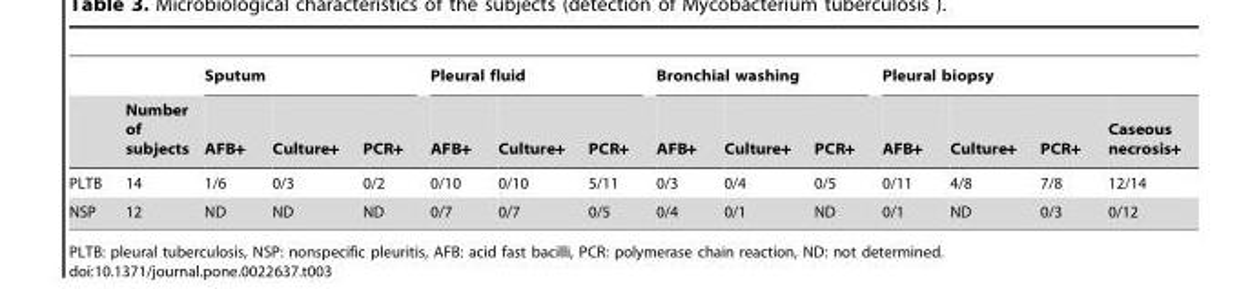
<table><thead><tr><td rowspan="2"></td><td rowspan="2">Number of subjects</td><td colspan="3">Sputum</td><td colspan="3">Pleural fluid</td><td colspan="3">Bronchial washing</td><td colspan="4">Pleural biopsy</td></tr><tr><td>AFB+</td><td>Culture+</td><td>PCR+</td><td>AFB+</td><td>Culture+</td><td>PCR+</td><td>AFB+</td><td>Culture+</td><td>PCR+</td><td>AFB+</td><td>Culture+</td><td>PCR+</td><td>Caseous necrosis+</td></tr></thead><tbody><tr><td>PLTB</td><td>14</td><td>1/6</td><td>0/3</td><td>0/2</td><td>0/10</td><td>0/10</td><td>5/11</td><td>0/3</td><td>0/4</td><td>0/5</td><td>0/11</td><td>4/8</td><td>7/8</td><td>12/14</td></tr><tr><td>NSP</td><td>12</td><td>ND</td><td>ND</td><td>ND</td><td>0/7</td><td>0/7</td><td>0/5</td><td>0/4</td><td>0/1</td><td>ND</td><td>0/1</td><td>ND</td><td>0/3</td><td>0/12</td></tr></tbody></table>